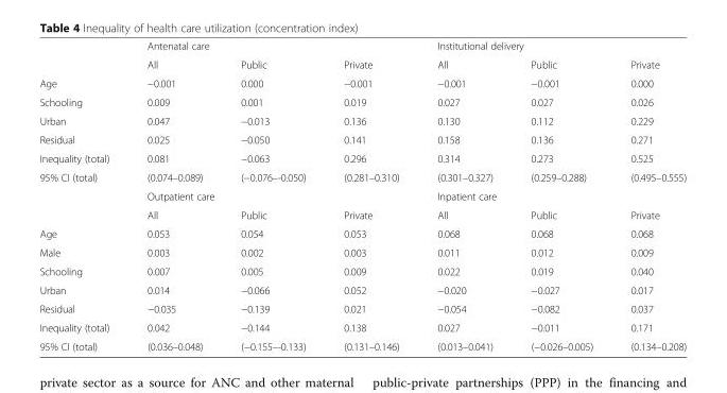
<table><thead><tr><td rowspan="2"></td><td colspan="3">Antenatal care</td><td colspan="3">Institutional delivery</td></tr><tr><td>All</td><td>Public</td><td>Private</td><td>All</td><td>Public</td><td>Private</td></tr></thead><tbody><tr><td>Age</td><td>−0.001</td><td>0.000</td><td>−0.001</td><td>−0.001</td><td>−0.001</td><td>0.000</td></tr><tr><td>Schooling</td><td>0.009</td><td>0.001</td><td>0.019</td><td>0.027</td><td>0.027</td><td>0.026</td></tr><tr><td>Urban</td><td>0.047</td><td>−0.013</td><td>0.136</td><td>0.130</td><td>0.112</td><td>0.229</td></tr><tr><td>Residual</td><td>0.025</td><td>−0.050</td><td>0.141</td><td>0.158</td><td>0.136</td><td>0.271</td></tr><tr><td>Inequality (total)</td><td>0.081</td><td>−0.063</td><td>0.296</td><td>0.314</td><td>0.273</td><td>0.525</td></tr><tr><td rowspan="3">95% CI (total)</td><td>(0.074–0.089)</td><td>(−0.076–-0.050)</td><td>(0.281–0.310)</td><td>(0.301–0.327)</td><td>(0.259–0.288)</td><td>(0.495–0.555)</td></tr><tr><td colspan="3">Outpatient care</td><td colspan="3">Inpatient care</td></tr><tr><td>All</td><td>Public</td><td>Private</td><td>All</td><td>Public</td><td>Private</td></tr><tr><td>Age</td><td>0.053</td><td>0.054</td><td>0.053</td><td>0.068</td><td>0.068</td><td>0.068</td></tr><tr><td>Male</td><td>0.003</td><td>0.002</td><td>0.003</td><td>0.011</td><td>0.012</td><td>0.009</td></tr><tr><td>Schooling</td><td>0.007</td><td>0.005</td><td>0.009</td><td>0.022</td><td>0.019</td><td>0.040</td></tr><tr><td>Urban</td><td>0.014</td><td>−0.066</td><td>0.052</td><td>−0.020</td><td>−0.027</td><td>0.017</td></tr><tr><td>Residual</td><td>−0.035</td><td>−0.139</td><td>0.021</td><td>−0.054</td><td>−0.082</td><td>0.037</td></tr><tr><td>Inequality (total)</td><td>0.042</td><td>−0.144</td><td>0.138</td><td>0.027</td><td>−0.011</td><td>0.171</td></tr><tr><td>95% CI (total)</td><td>(0.036–0.048)</td><td>(−0.155–-0.133)</td><td>(0.131–0.146)</td><td>(0.013–0.041)</td><td>(−0.026–0.005)</td><td>(0.134–0.208)</td></tr></tbody></table>